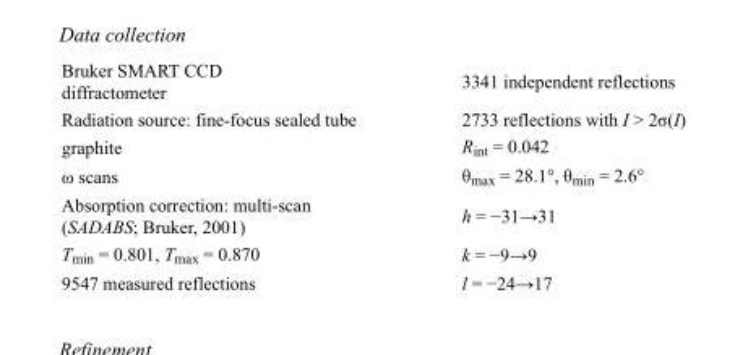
<table><tbody><tr><td>Bruker SMART CCD diffractometer</td><td>3341 independent reflections</td></tr><tr><td>Radiation source: fine-focus sealed tube</td><td>2733 reflections with I &gt; 2σ(I)</td></tr><tr><td>graphite</td><td>R<sub>int</sub> = 0.042</td></tr><tr><td>ω scans</td><td>θ<sub>max</sub> = 28.1°, θ<sub>min</sub> = 2.6°</td></tr><tr><td>Absorption correction: multi-scan (SADABS; Bruker, 2001)</td><td>h = −31→31</td></tr><tr><td>T<sub>min</sub> = 0.801, T<sub>max</sub> = 0.870</td><td>k = −9→9</td></tr><tr><td>9547 measured reflections</td><td>l = −24→17</td></tr></tbody></table>